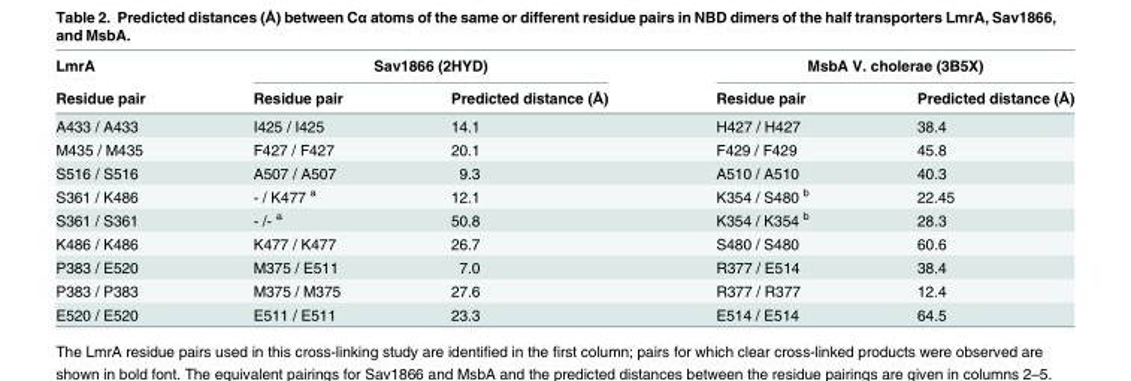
<table><thead><tr><td rowspan="2">LmrA Residue pair</td><td colspan="2">Sav1866 (2HYD)</td><td colspan="2">MsbA V. cholerae (3B5X)</td></tr><tr><td>Residue pair</td><td>Predicted distance (Å)</td><td>Residue pair</td><td>Predicted distance (Å)</td></tr></thead><tbody><tr><td>A433 / A433</td><td>I425 / I425</td><td>14.1</td><td>H427 / H427</td><td>38.4</td></tr><tr><td>M435 / M435</td><td>F427 / F427</td><td>20.1</td><td>F429 / F429</td><td>45.8</td></tr><tr><td>S516 / S516</td><td>A507 / A507</td><td>9.3</td><td>A510 / A510</td><td>40.3</td></tr><tr><td>S361 / K486</td><td>- / K477 <sup>a</sup></td><td>12.1</td><td>K354 / S480 <sup>b</sup></td><td>22.45</td></tr><tr><td>S361 / S361</td><td>- /- <sup>a</sup></td><td>50.8</td><td>K354 / K354 <sup>b</sup></td><td>28.3</td></tr><tr><td>K486 / K486</td><td>K477 / K477</td><td>26.7</td><td>S480 / S480</td><td>60.6</td></tr><tr><td>P383 / E520</td><td>M375 / E511</td><td>7.0</td><td>R377 / E514</td><td>38.4</td></tr><tr><td>P383 / P383</td><td>M375 / M375</td><td>27.6</td><td>R377 / R377</td><td>12.4</td></tr><tr><td>E520 / E520</td><td>E511 / E511</td><td>23.3</td><td>E514 / E514</td><td>64.5</td></tr></tbody></table>